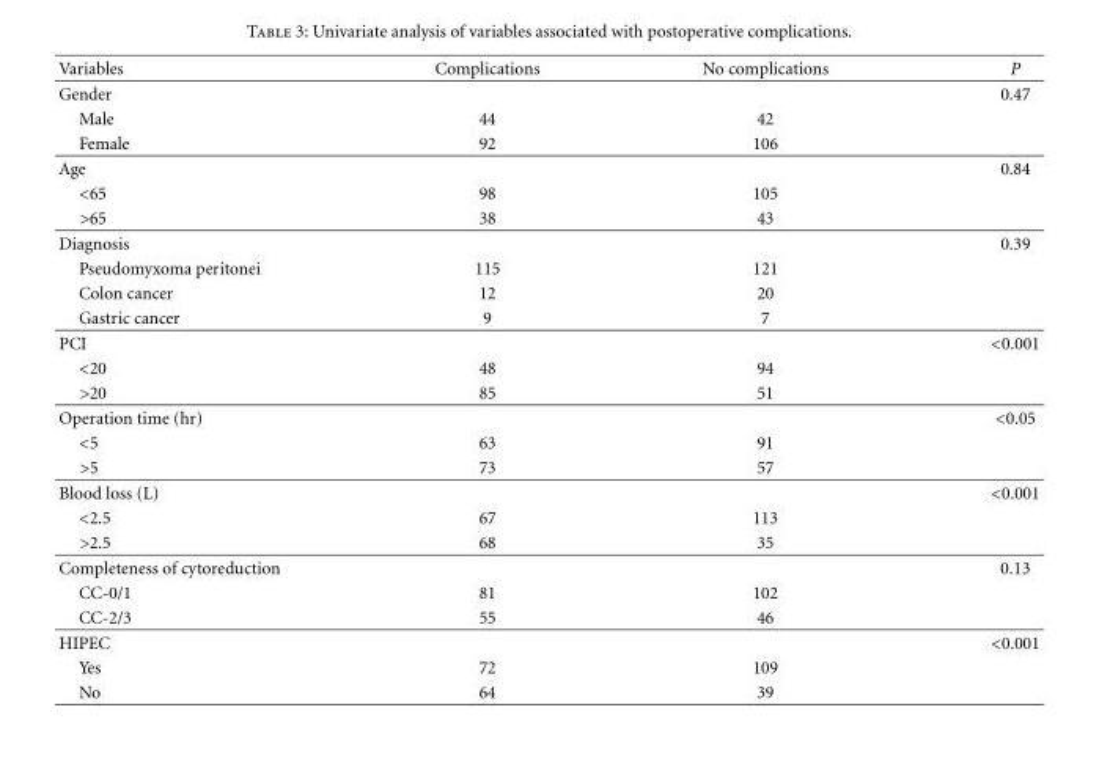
<table><thead><tr><td>Variables</td><td>Complications</td><td>No complications</td><td>P</td></tr></thead><tbody><tr><td>Gender</td><td></td><td></td><td>0.47</td></tr><tr><td>Male</td><td>44</td><td>42</td><td></td></tr><tr><td>Female</td><td>92</td><td>106</td><td></td></tr><tr><td>Age</td><td></td><td></td><td>0.84</td></tr><tr><td>&lt;65</td><td>98</td><td>105</td><td></td></tr><tr><td>&gt;65</td><td>38</td><td>43</td><td></td></tr><tr><td>Diagnosis</td><td></td><td></td><td>0.39</td></tr><tr><td>Pseudomyxoma peritonei</td><td>115</td><td>121</td><td></td></tr><tr><td>Colon cancer</td><td>12</td><td>20</td><td></td></tr><tr><td>Gastric cancer</td><td>9</td><td>7</td><td></td></tr><tr><td>PCI</td><td></td><td></td><td>&lt;0.001</td></tr><tr><td>&lt;20</td><td>48</td><td>94</td><td></td></tr><tr><td>&gt;20</td><td>85</td><td>51</td><td></td></tr><tr><td>Operation time (hr)</td><td></td><td></td><td>&lt;0.05</td></tr><tr><td>&lt;5</td><td>63</td><td>91</td><td></td></tr><tr><td>&gt;5</td><td>73</td><td>57</td><td></td></tr><tr><td>Blood loss (L)</td><td></td><td></td><td>&lt;0.001</td></tr><tr><td>&lt;2.5</td><td>67</td><td>113</td><td></td></tr><tr><td>&gt;2.5</td><td>68</td><td>35</td><td></td></tr><tr><td>Completeness of cytoreduction</td><td></td><td></td><td>0.13</td></tr><tr><td>CC-0/1</td><td>81</td><td>102</td><td></td></tr><tr><td>CC-2/3</td><td>55</td><td>46</td><td></td></tr><tr><td>HIPEC</td><td></td><td></td><td>&lt;0.001</td></tr><tr><td>Yes</td><td>72</td><td>109</td><td></td></tr><tr><td>No</td><td>64</td><td>39</td><td></td></tr></tbody></table>